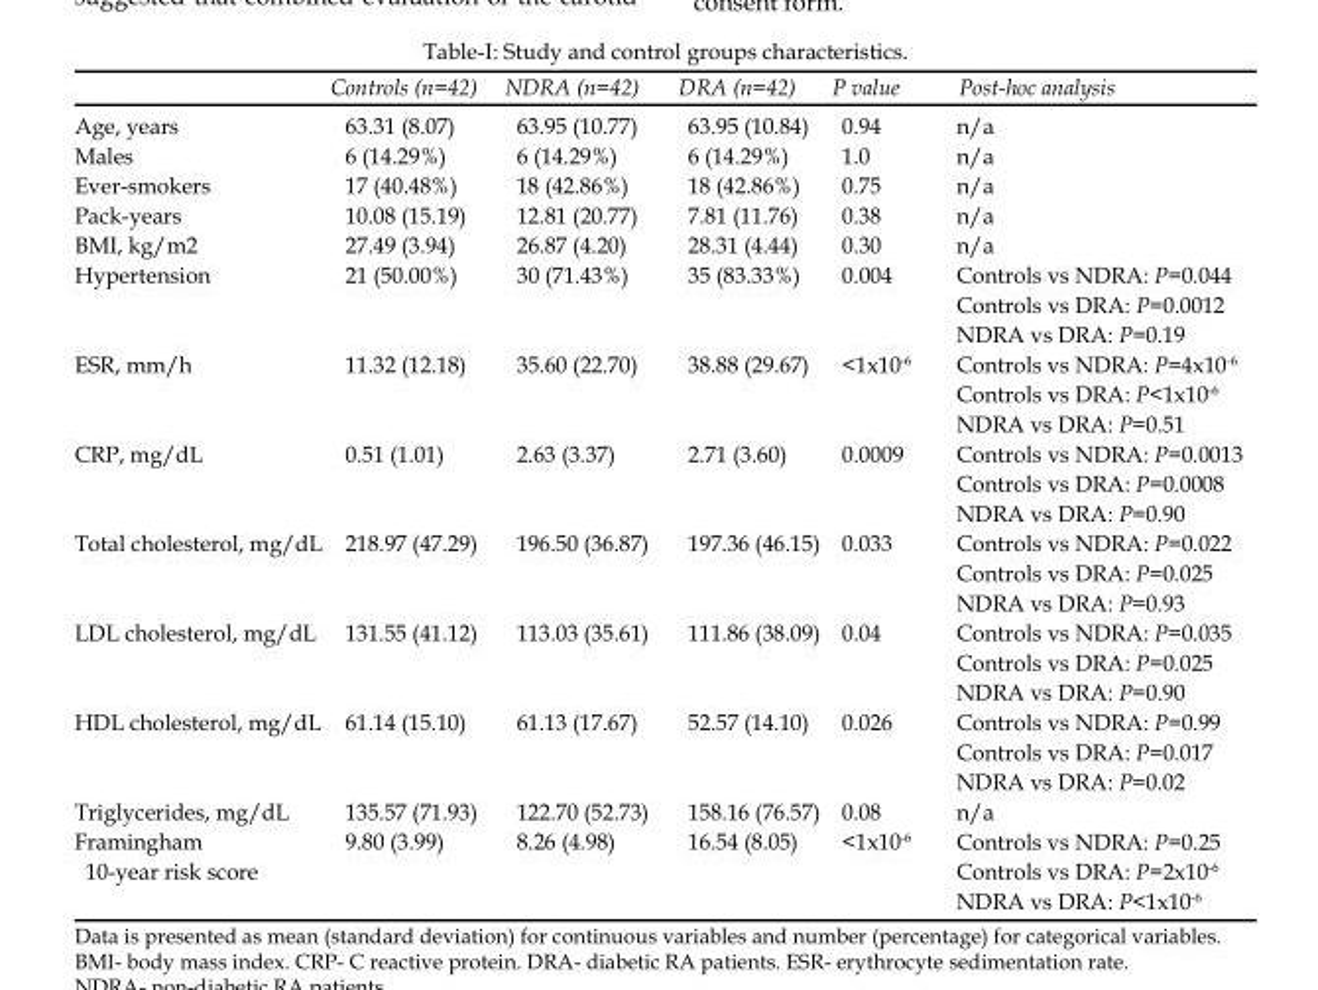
<table><thead><tr><td></td><td>Controls (n=42)</td><td>NDRA (n=42)</td><td>DRA (n=42)</td><td>P value</td><td>Post-hoc analysis</td></tr></thead><tbody><tr><td>Age, years</td><td>63.31 (8.07)</td><td>63.95 (10.77)</td><td>63.95 (10.84)</td><td>0.94</td><td>n/a</td></tr><tr><td>Males</td><td>6 (14.29%)</td><td>6 (14.29%)</td><td>6 (14.29%)</td><td>1.0</td><td>n/a</td></tr><tr><td>Ever-smokers</td><td>17 (40.48%)</td><td>18 (42.86%)</td><td>18 (42.86%)</td><td>0.75</td><td>n/a</td></tr><tr><td>Pack-years</td><td>10.08 (15.19)</td><td>12.81 (20.77)</td><td>7.81 (11.76)</td><td>0.38</td><td>n/a</td></tr><tr><td>BMI, kg/m<sup>2</sup></td><td>27.49 (3.94)</td><td>26.87 (4.20)</td><td>28.31 (4.44)</td><td>0.30</td><td>n/a</td></tr><tr><td rowspan="3">Hypertension</td><td rowspan="3">21 (50.00%)</td><td rowspan="3">30 (71.43%)</td><td rowspan="3">35 (83.33%)</td><td rowspan="3">0.004</td><td>Controls vs NDRA: P=0.044</td></tr><tr><td>Controls vs DRA: P=0.0012</td></tr><tr><td>NDRA vs DRA: P=0.19</td></tr><tr><td rowspan="3">ESR, mm/h</td><td rowspan="3">11.32 (12.18)</td><td rowspan="3">35.60 (22.70)</td><td rowspan="3">38.88 (29.67)</td><td rowspan="3">&lt;1x10-6</td><td>Controls vs NDRA: P=4x10-6</td></tr><tr><td>Controls vs DRA: P&lt;1x10-6</td></tr><tr><td>NDRA vs DRA: P=0.51</td></tr><tr><td rowspan="3">CRP, mg/dL</td><td rowspan="3">0.51 (1.01)</td><td rowspan="3">2.63 (3.37)</td><td rowspan="3">2.71 (3.60)</td><td rowspan="3">0.0009</td><td>Controls vs NDRA: P=0.0013</td></tr><tr><td>Controls vs DRA: P=0.0008</td></tr><tr><td>NDRA vs DRA: P=0.90</td></tr><tr><td rowspan="3">Total cholesterol, mg/dL</td><td rowspan="3">218.97 (47.29)</td><td rowspan="3">196.50 (36.87)</td><td rowspan="3">197.36 (46.15)</td><td rowspan="3">0.033</td><td>Controls vs NDRA: P=0.022</td></tr><tr><td>Controls vs DRA: P=0.025</td></tr><tr><td>NDRA vs DRA: P=0.93</td></tr><tr><td rowspan="3">LDL cholesterol, mg/dL</td><td rowspan="3">131.55 (41.12)</td><td rowspan="3">113.03 (35.61)</td><td rowspan="3">111.86 (38.09)</td><td rowspan="3">0.04</td><td>Controls vs NDRA: P=0.035</td></tr><tr><td>Controls vs DRA: P=0.025</td></tr><tr><td>NDRA vs DRA: P=0.90</td></tr><tr><td rowspan="3">HDL cholesterol, mg/dL</td><td rowspan="3">61.14 (15.10)</td><td rowspan="3">61.13 (17.67)</td><td rowspan="3">52.57 (14.10)</td><td rowspan="3">0.026</td><td>Controls vs NDRA: P=0.99</td></tr><tr><td>Controls vs DRA: P=0.017</td></tr><tr><td>NDRA vs DRA: P=0.02</td></tr><tr><td>Triglycerides, mg/dL</td><td>135.57 (71.93)</td><td>122.70 (52.73)</td><td>158.16 (76.57)</td><td>0.08</td><td>n/a</td></tr><tr><td rowspan="3">Framingham 10-year risk score</td><td rowspan="3">9.80 (3.99)</td><td rowspan="3">8.26 (4.98)</td><td rowspan="3">16.54 (8.05)</td><td rowspan="3">&lt;1x10-6</td><td>Controls vs NDRA: P=0.25</td></tr><tr><td>Controls vs DRA: P=2x10-6</td></tr><tr><td>NDRA vs DRA: P&lt;1x10-6</td></tr></tbody></table>